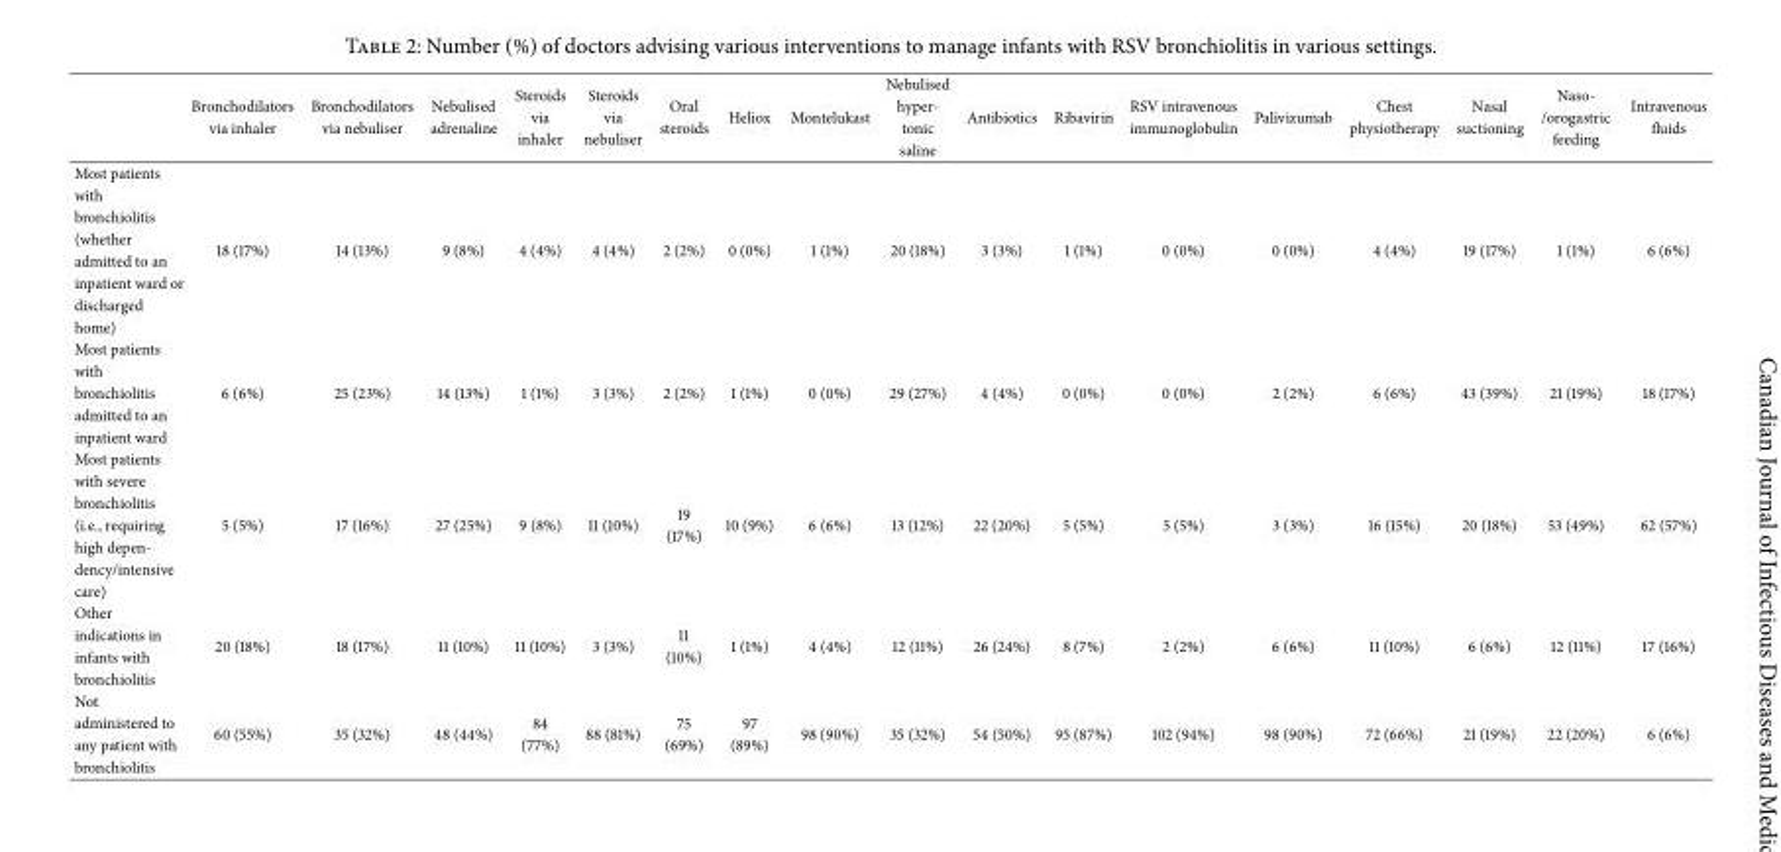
<table><thead><tr><td></td><td>Bronchodilators via inhaler</td><td>Bronchodilators via nebuliser</td><td>Nebulised adrenaline</td><td>Steroids via inhaler</td><td>Steroids via nebuliser</td><td>Oral steroids</td><td>Heliox</td><td>Montelukast</td><td>Nebulised hyper- tonic saline</td><td>Antibiotics</td><td>Ribavirin</td><td>RSV intravenous immunoglobulin</td><td>Palivizumab</td><td>Chest physiotherapy</td><td>Nasal suctioning</td><td>Naso- /orogastric feeding</td><td>Intravenous fluids</td></tr></thead><tbody><tr><td>Most patients with bronchiolitis (whether admitted to an inpatient ward or discharged home)</td><td>18 (17%)</td><td>14 (13%)</td><td>9 (8%)</td><td>4 (4%)</td><td>4 (4%)</td><td>2 (2%)</td><td>0 (0%)</td><td>1 (1%)</td><td>20 (18%)</td><td>3 (3%)</td><td>1 (1%)</td><td>0 (0%)</td><td>0 (0%)</td><td>4 (4%)</td><td>19 (17%)</td><td>1 (1%)</td><td>6 (6%)</td></tr><tr><td>Most patients with bronchiolitis admitted to an inpatient ward</td><td>6 (6%)</td><td>25 (23%)</td><td>14 (13%)</td><td>1 (1%)</td><td>3 (3%)</td><td>2 (2%)</td><td>1 (1%)</td><td>0 (0%)</td><td>29 (27%)</td><td>4 (4%)</td><td>0 (0%)</td><td>0 (0%)</td><td>2 (2%)</td><td>6 (6%)</td><td>43 (39%)</td><td>21 (19%)</td><td>18 (17%)</td></tr><tr><td>Most patients with severe bronchiolitis (i.e., requiring high depen- dency/intensive care)</td><td>5 (5%)</td><td>17 (16%)</td><td>27 (25%)</td><td>9 (8%)</td><td>11 (10%)</td><td>19 (17%)</td><td>10 (9%)</td><td>6 (6%)</td><td>13 (12%)</td><td>22 (20%)</td><td>5 (5%)</td><td>5 (5%)</td><td>3 (3%)</td><td>16 (15%)</td><td>20 (18%)</td><td>53 (49%)</td><td>62 (57%)</td></tr><tr><td>Other indications in infants with bronchiolitis</td><td>20 (18%)</td><td>18 (17%)</td><td>11 (10%)</td><td>11 (10%)</td><td>3 (3%)</td><td>11 (10%)</td><td>1 (1%)</td><td>4 (4%)</td><td>12 (11%)</td><td>26 (24%)</td><td>8 (7%)</td><td>2 (2%)</td><td>6 (6%)</td><td>11 (10%)</td><td>6 (6%)</td><td>12 (11%)</td><td>17 (16%)</td></tr><tr><td>Not administered to any patient with bronchiolitis</td><td>60 (55%)</td><td>35 (32%)</td><td>48 (44%)</td><td>84 (77%)</td><td>88 (81%)</td><td>75 (69%)</td><td>97 (89%)</td><td>98 (90%)</td><td>35 (32%)</td><td>54 (50%)</td><td>95 (87%)</td><td>102 (94%)</td><td>98 (90%)</td><td>72 (66%)</td><td>21 (19%)</td><td>22 (20%)</td><td>6 (6%)</td></tr></tbody></table>